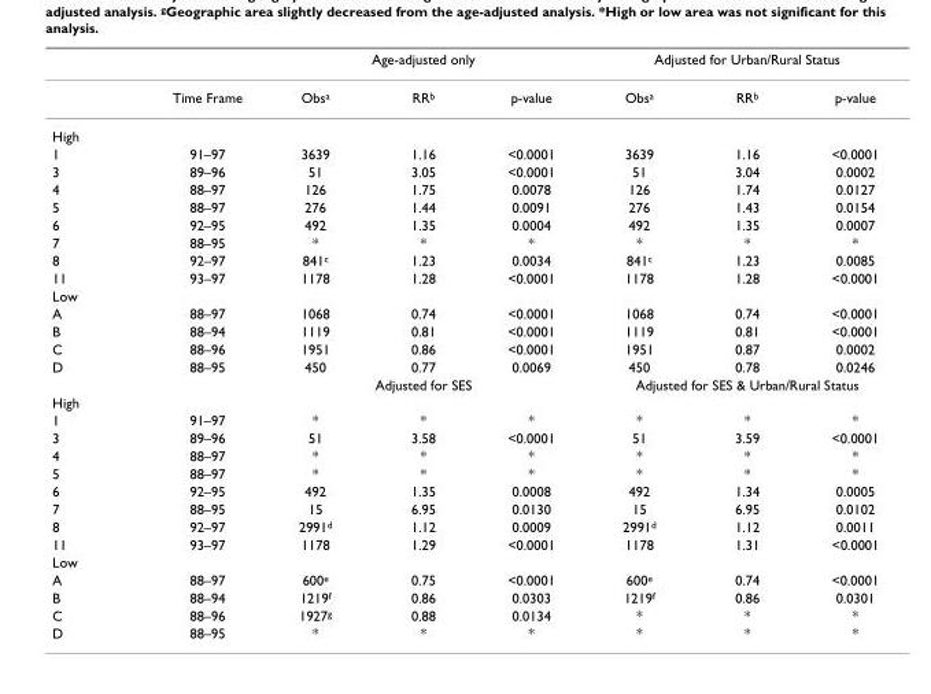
<table><thead><tr><td rowspan="2"></td><td rowspan="2">Time Frame</td><td colspan="3">Age-adjusted only</td><td colspan="3">Adjusted for Urban/Rural Status</td></tr><tr><td>Obs<sup>a</sup></td><td>RR<sup>b</sup></td><td>p-value</td><td>Obs<sup>a</sup></td><td>RR<sup>b</sup></td><td>p-value</td></tr></thead><tbody><tr><td colspan="8">High</td></tr><tr><td>1</td><td>91–97</td><td>3639</td><td>1.16</td><td>&lt;0.0001</td><td>3639</td><td>1.16</td><td>&lt;0.0001</td></tr><tr><td>3</td><td>89–96</td><td>51</td><td>3.05</td><td>&lt;0.0001</td><td>51</td><td>3.04</td><td>0.0002</td></tr><tr><td>4</td><td>88–97</td><td>126</td><td>1.75</td><td>0.0078</td><td>126</td><td>1.74</td><td>0.0127</td></tr><tr><td>5</td><td>88–97</td><td>276</td><td>1.44</td><td>0.0091</td><td>276</td><td>1.43</td><td>0.0154</td></tr><tr><td>6</td><td>92–95</td><td>492</td><td>1.35</td><td>0.0004</td><td>492</td><td>1.35</td><td>0.0007</td></tr><tr><td>7</td><td>88–95</td><td>*</td><td>*</td><td>*</td><td>*</td><td>*</td><td>*</td></tr><tr><td>8</td><td>92–97</td><td>841<sup>c</sup></td><td>1.23</td><td>0.0034</td><td>841<sup>c</sup></td><td>1.23</td><td>0.0085</td></tr><tr><td>11</td><td>93–97</td><td>1178</td><td>1.28</td><td>&lt;0.0001</td><td>1178</td><td>1.28</td><td>&lt;0.0001</td></tr><tr><td colspan="8">Low</td></tr><tr><td>A</td><td>88–97</td><td>1068</td><td>0.74</td><td>&lt;0.0001</td><td>1068</td><td>0.74</td><td>&lt;0.0001</td></tr><tr><td>B</td><td>88–94</td><td>1119</td><td>0.81</td><td>&lt;0.0001</td><td>1119</td><td>0.81</td><td>&lt;0.0001</td></tr><tr><td>C</td><td>88–96</td><td>1951</td><td>0.86</td><td>&lt;0.0001</td><td>1951</td><td>0.87</td><td>0.0002</td></tr><tr><td rowspan="2">D</td><td>88–95</td><td>450</td><td>0.77</td><td>0.0069</td><td>450</td><td>0.78</td><td>0.0246</td></tr><tr><td></td><td colspan="3">Adjusted for SES</td><td colspan="3">Adjusted for SES &amp; Urban/Rural Status</td></tr><tr><td colspan="8">High</td></tr><tr><td>1</td><td>91–97</td><td>*</td><td>*</td><td>*</td><td>*</td><td>*</td><td>*</td></tr><tr><td>3</td><td>89–96</td><td>51</td><td>3.58</td><td>&lt;0.0001</td><td>51</td><td>3.59</td><td>&lt;0.0001</td></tr><tr><td>4</td><td>88–97</td><td>*</td><td>*</td><td>*</td><td>*</td><td>*</td><td>*</td></tr><tr><td>5</td><td>88–97</td><td>*</td><td>*</td><td>*</td><td>*</td><td>*</td><td>*</td></tr><tr><td>6</td><td>92–95</td><td>492</td><td>1.35</td><td>0.0008</td><td>492</td><td>1.34</td><td>0.0005</td></tr><tr><td>7</td><td>88–95</td><td>15</td><td>6.95</td><td>0.0130</td><td>15</td><td>6.95</td><td>0.0102</td></tr><tr><td>8</td><td>92–97</td><td>2991<sup>d</sup></td><td>1.12</td><td>0.0009</td><td>2991<sup>d</sup></td><td>1.12</td><td>0.0011</td></tr><tr><td>11</td><td>93–97</td><td>1178</td><td>1.29</td><td>&lt;0.0001</td><td>1178</td><td>1.31</td><td>&lt;0.0001</td></tr><tr><td colspan="8">Low</td></tr><tr><td>A</td><td>88–97</td><td>600<sup>e</sup></td><td>0.75</td><td>&lt;0.0001</td><td>600<sup>e</sup></td><td>0.74</td><td>&lt;0.0001</td></tr><tr><td>B</td><td>88–94</td><td>1219<sup>f</sup></td><td>0.86</td><td>0.0303</td><td>1219<sup>f</sup></td><td>0.86</td><td>0.0301</td></tr><tr><td>C</td><td>88–96</td><td>1927<sup>g</sup></td><td>0.88</td><td>0.0134</td><td>*</td><td>*</td><td>*</td></tr><tr><td>D</td><td>88–95</td><td>*</td><td>*</td><td>*</td><td>*</td><td>*</td><td>*</td></tr></tbody></table>